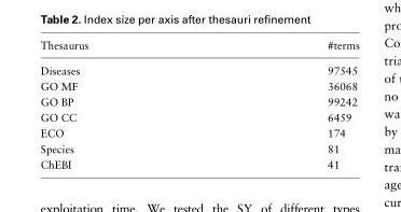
<table><thead><tr><td>Thesaurus</td><td>#terms</td></tr></thead><tbody><tr><td>Diseases</td><td>97545</td></tr><tr><td>GO MF</td><td>36068</td></tr><tr><td>GO BP</td><td>99242</td></tr><tr><td>GO CC</td><td>6459</td></tr><tr><td>ECO</td><td>174</td></tr><tr><td>Species</td><td>81</td></tr><tr><td>ChEBI</td><td>41</td></tr></tbody></table>